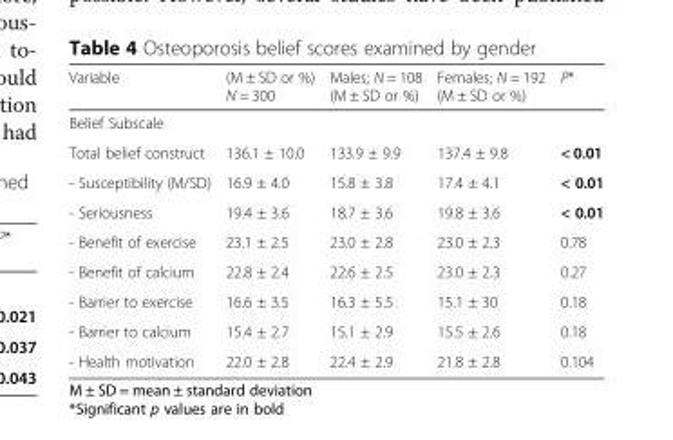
<table><thead><tr><td>Variable</td><td>(M ± SD or %) N = 300</td><td>Males; N = 108 (M ± SD or %)</td><td>Females; N = 192 (M ± SD or %)</td><td>P*</td></tr></thead><tbody><tr><td colspan="5">Belief Subscale</td></tr><tr><td>Total belief construct</td><td>136.1 ± 10.0</td><td>133.9 ± 9.9</td><td>137.4 ± 9.8</td><td>&lt; 0.01</td></tr><tr><td>- Susceptibility (M/SD)</td><td>16.9 ± 4.0</td><td>15.8 ± 3.8</td><td>17.4 ± 4.1</td><td>&lt; 0.01</td></tr><tr><td>- Seriousness</td><td>19.4 ± 3.6</td><td>18.7 ± 3.6</td><td>19.8 ± 3.6</td><td>&lt; 0.01</td></tr><tr><td>- Benefit of exercise</td><td>23.1 ± 2.5</td><td>23.0 ± 2.8</td><td>23.0 ± 2.3</td><td>0.78</td></tr><tr><td>- Benefit of calcium</td><td>22.8 ± 2.4</td><td>22.6 ± 2.5</td><td>23.0 ± 2.3</td><td>0.27</td></tr><tr><td>- Barrier to exercise</td><td>16.6 ± 3.5</td><td>16.3 ± 5.5</td><td>15.1 ± 30</td><td>0.18</td></tr><tr><td>- Barrier to calcium</td><td>15.4 ± 2.7</td><td>15.1 ± 2.9</td><td>15.5 ± 2.6</td><td>0.18</td></tr><tr><td>- Health motivation</td><td>22.0 ± 2.8</td><td>22.4 ± 2.9</td><td>21.8 ± 2.8</td><td>0.104</td></tr></tbody></table>